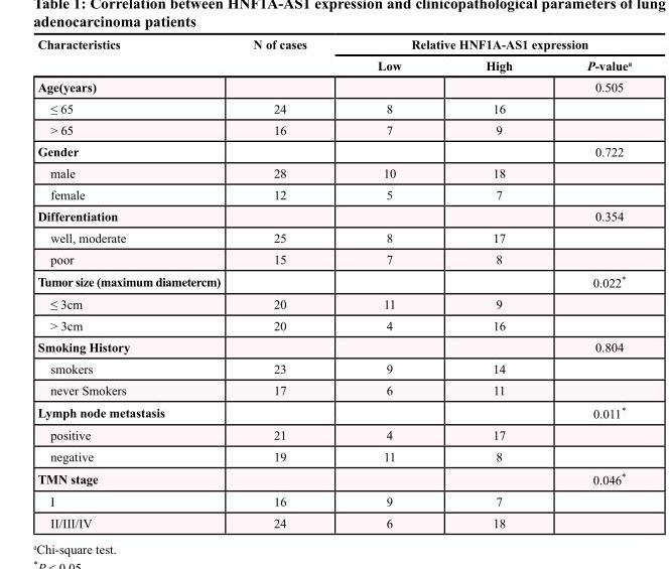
<table><thead><tr><td rowspan="2">Characteristics</td><td rowspan="2">N of cases</td><td colspan="3">Relative HNF1A-AS1 expression</td></tr><tr><td>Low</td><td>High</td><td>P-value<sup>a</sup></td></tr></thead><tbody><tr><td>Age(years)</td><td></td><td></td><td></td><td>0.505</td></tr><tr><td>≤ 65</td><td>24</td><td>8</td><td>16</td><td></td></tr><tr><td>&gt; 65</td><td>16</td><td>7</td><td>9</td><td></td></tr><tr><td>Gender</td><td></td><td></td><td></td><td>0.722</td></tr><tr><td>male</td><td>28</td><td>10</td><td>18</td><td></td></tr><tr><td>female</td><td>12</td><td>5</td><td>7</td><td></td></tr><tr><td>Differentiation</td><td></td><td></td><td></td><td>0.354</td></tr><tr><td>well, moderate</td><td>25</td><td>8</td><td>17</td><td></td></tr><tr><td>poor</td><td>15</td><td>7</td><td>8</td><td></td></tr><tr><td>Tumor size (maximum diametercm)</td><td></td><td></td><td></td><td>0.022*</td></tr><tr><td>≤ 3cm</td><td>20</td><td>11</td><td>9</td><td></td></tr><tr><td>&gt; 3cm</td><td>20</td><td>4</td><td>16</td><td></td></tr><tr><td>Smoking History</td><td></td><td></td><td></td><td>0.804</td></tr><tr><td>smokers</td><td>23</td><td>9</td><td>14</td><td></td></tr><tr><td>never Smokers</td><td>17</td><td>6</td><td>11</td><td></td></tr><tr><td>Lymph node metastasis</td><td></td><td></td><td></td><td>0.011*</td></tr><tr><td>positive</td><td>21</td><td>4</td><td>17</td><td></td></tr><tr><td>negative</td><td>19</td><td>11</td><td>8</td><td></td></tr><tr><td>TMN stage</td><td></td><td></td><td></td><td>0.046*</td></tr><tr><td>I</td><td>16</td><td>9</td><td>7</td><td></td></tr><tr><td>II/III/IV</td><td>24</td><td>6</td><td>18</td><td></td></tr></tbody></table>